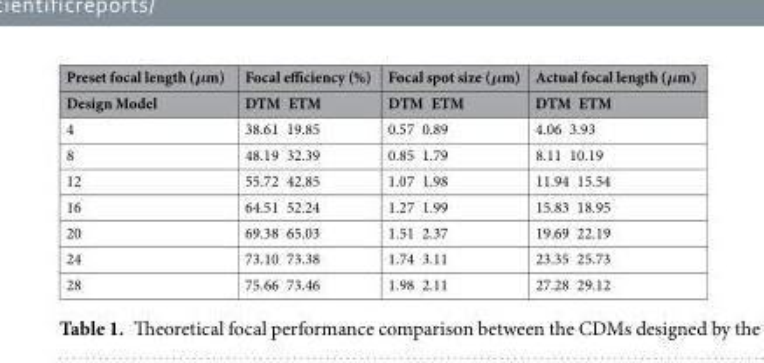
<table><thead><tr><td rowspan="2">Preset focal length (μm) Design Model</td><td rowspan="2">Focal efficiency (%) DTM ETM</td><td rowspan="2">Focal spot size (μm) DTM ETM</td><td rowspan="2">Actual focal length (μm) DTM ETM</td></tr><tr></tr></thead><tbody><tr><td>4</td><td>38.61 19.85</td><td>0.57 0.89</td><td>4.06 3.93</td></tr><tr><td>8</td><td>48.19 32.39</td><td>0.85 1.79</td><td>8.11 10.19</td></tr><tr><td>12</td><td>55.72 42.85</td><td>1.07 1.98</td><td>11.94 15.54</td></tr><tr><td>16</td><td>64.51 52.24</td><td>1.27 1.99</td><td>15.83 18.95</td></tr><tr><td>20</td><td>69.38 65.03</td><td>1.51 2.37</td><td>19.69 22.19</td></tr><tr><td>24</td><td>73.10 73.38</td><td>1.74 3.11</td><td>23.35 25.73</td></tr><tr><td>28</td><td>75.66 73.46</td><td>1.98 2.11</td><td>27.28 29.12</td></tr></tbody></table>